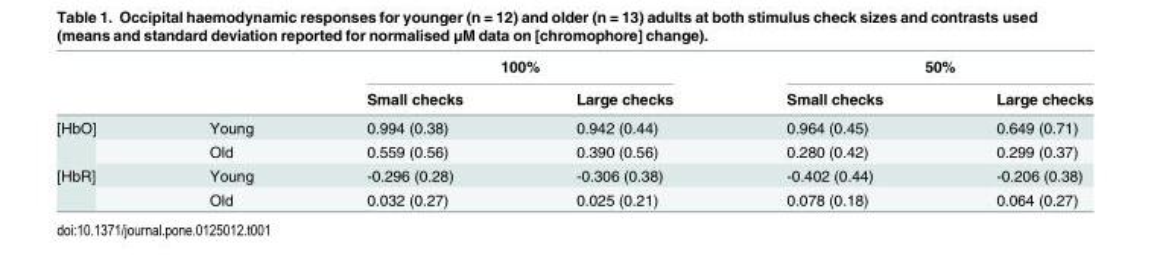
<table><thead><tr><td rowspan="2"></td><td rowspan="2"></td><td colspan="2">100%</td><td colspan="2">50%</td></tr><tr><td>Small checks</td><td>Large checks</td><td>Small checks</td><td>Large checks</td></tr></thead><tbody><tr><td rowspan="2">[HbO]</td><td>Young</td><td>0.994 (0.38)</td><td>0.942 (0.44)</td><td>0.964 (0.45)</td><td>0.649 (0.71)</td></tr><tr><td>Old</td><td>0.559 (0.56)</td><td>0.390 (0.56)</td><td>0.280 (0.42)</td><td>0.299 (0.37)</td></tr><tr><td rowspan="2">[HbR]</td><td>Young</td><td>-0.296 (0.28)</td><td>-0.306 (0.38)</td><td>-0.402 (0.44)</td><td>-0.206 (0.38)</td></tr><tr><td>Old</td><td>0.032 (0.27)</td><td>0.025 (0.21)</td><td>0.078 (0.18)</td><td>0.064 (0.27)</td></tr></tbody></table>